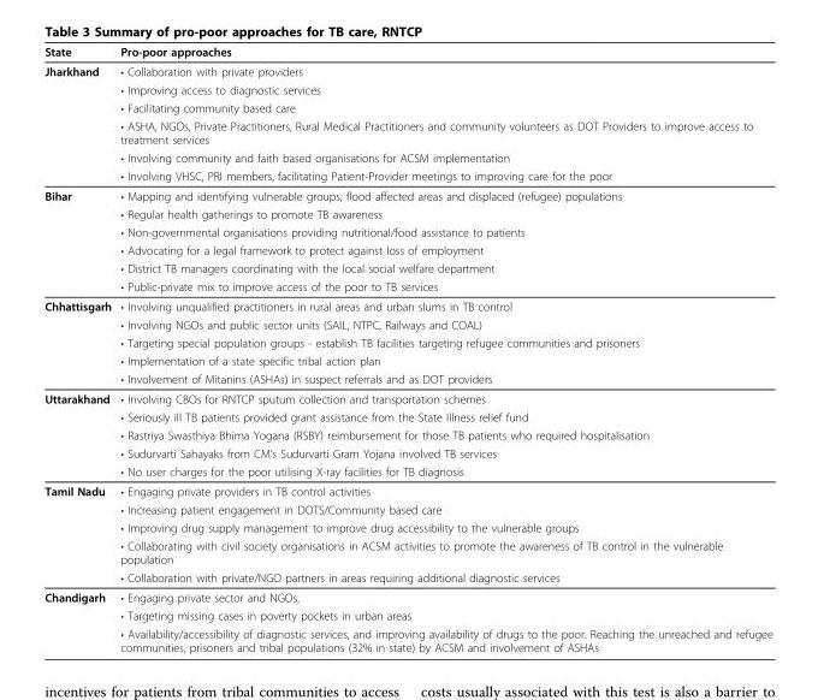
<table><thead><tr><td>State</td><td>Pro-poor approaches</td></tr></thead><tbody><tr><td rowspan="6">Jharkhand</td><td>• Collaboration with private providers</td></tr><tr><td>• Improving access to diagnostic services</td></tr><tr><td>• Facilitating community based care</td></tr><tr><td>• ASHA, NGOs, Private Practitioners, Rural Medical Practitioners and community volunteers as DOT Providers to improve access to treatment services</td></tr><tr><td>• Involving community and faith based organisations for ACSM implementation</td></tr><tr><td>• Involving VHSC, PRI members, facilitating Patient-Provider meetings to improving care for the poor</td></tr><tr><td rowspan="6">Bihar</td><td>• Mapping and identifying vulnerable groups, flood affected areas and displaced (refugee) populations</td></tr><tr><td>• Regular health gatherings to promote TB awareness</td></tr><tr><td>• Non-governmental organisations providing nutritional/food assistance to patients</td></tr><tr><td>• Advocating for a legal framework to protect against loss of employment</td></tr><tr><td>• District TB managers coordinating with the local social welfare department</td></tr><tr><td>• Public-private mix to improve access of the poor to TB services</td></tr><tr><td rowspan="5">Chhattisgarh</td><td>• Involving unqualified practitioners in rural areas and urban slums in TB control</td></tr><tr><td>• Involving NGOs and public sector units (SAIL, NTPC, Railways and COAL)</td></tr><tr><td>• Targeting special population groups - establish TB facilities targeting refugee communities and prisoners</td></tr><tr><td>• Implementation of a state specific tribal action plan</td></tr><tr><td>• Involvement of Mitanins (ASHAs) in suspect referrals and as DOT providers</td></tr><tr><td rowspan="5">Uttarakhand</td><td>• Involving CBOs for RNTCP sputum collection and transportation schemes</td></tr><tr><td>• Seriously ill TB patients provided grant assistance from the State Illness relief fund</td></tr><tr><td>• Rastriya Swasthiya Bhima Yogana (RSBY) reimbursement for those TB patients who required hospitalisation</td></tr><tr><td>• Sudurvarti Sahayaks from CM’s Sudurvarti Gram Yojana involved TB services</td></tr><tr><td>• No user charges for the poor utilising X-ray facilities for TB diagnosis</td></tr><tr><td rowspan="5">Tamil Nadu</td><td>• Engaging private providers in TB control activities</td></tr><tr><td>• Increasing patient engagement in DOTS/Community based care</td></tr><tr><td>• Improving drug supply management to improve drug accessibility to the vulnerable groups</td></tr><tr><td>• Collaborating with civil society organisations in ACSM activities to promote the awareness of TB control in the vulnerable population</td></tr><tr><td>• Collaboration with private/NGO partners in areas requiring additional diagnostic services</td></tr><tr><td rowspan="3">Chandigarh</td><td>• Engaging private sector and NGOs,</td></tr><tr><td>• Targeting missing cases in poverty pockets in urban areas</td></tr><tr><td>• Availability/accessibility of diagnostic services, and improving availability of drugs to the poor. Reaching the unreached and refugee communities, prisoners and tribal populations (32% in state) by ACSM and involvement of ASHAs</td></tr></tbody></table>